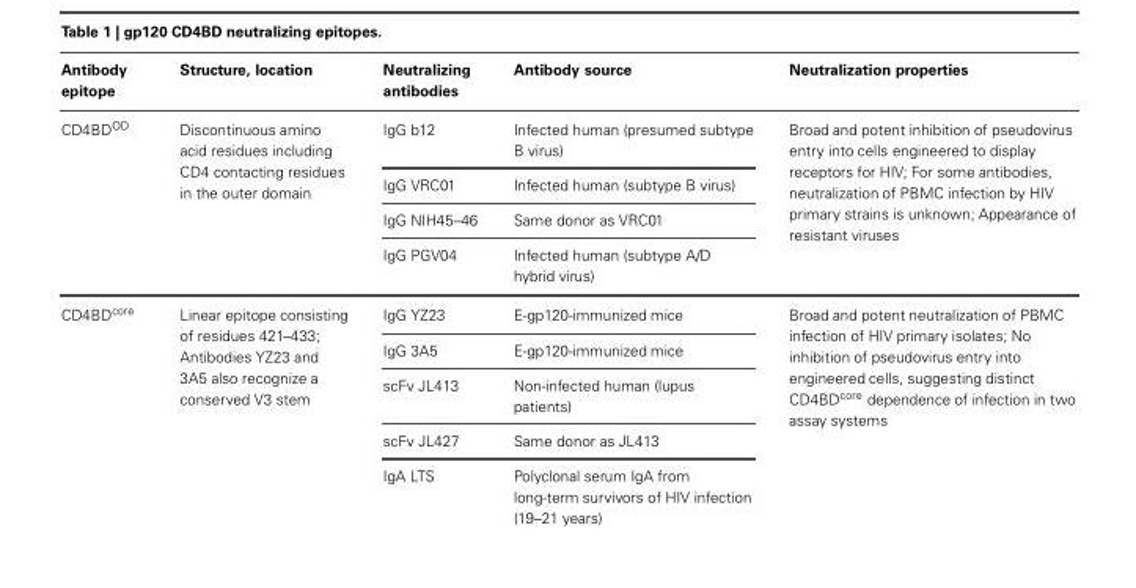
<table><thead><tr><td>Antibody epitope</td><td>Structure, location</td><td>Neutralizing antibodies</td><td>Antibody source</td><td>Neutralization properties</td></tr></thead><tbody><tr><td rowspan="4">CD4BD<sup>OD</sup></td><td rowspan="4">Discontinuous amino acid residues including CD4 contacting residues in the outer domain</td><td>IgG b12</td><td>Infected human (presumed subtype B virus)</td><td rowspan="4">Broad and potent inhibition of pseudovirus entry into cells engineered to display receptors for HIV; For some antibodies, neutralization of PBMC infection by HIV primary strains is unknown; Appearance of resistant viruses</td></tr><tr><td>IgG VRC01</td><td>Infected human (subtype B virus)</td></tr><tr><td>IgG NIH45–46</td><td>Same donor as VRC01</td></tr><tr><td>IgG PGV04</td><td>Infected human (subtype A/D hybrid virus)</td></tr><tr><td rowspan="5">CD4BD<sup>core</sup></td><td rowspan="5">Linear epitope consisting of residues 421–433; Antibodies YZ23 and 3A5 also recognize a conserved V3 stem</td><td>IgG YZ23</td><td>E-gp120-immunized mice</td><td rowspan="5">Broad and potent neutralization of PBMC infection of HIV primary isolates; No inhibition of pseudovirus entry into engineered cells, suggesting distinct CD4BD<sup>core</sup> dependence of infection in two assay systems</td></tr><tr><td>IgG 3A5</td><td>E-gp120-immunized mice</td></tr><tr><td>scFv JL413</td><td>Non-infected human (lupus patients)</td></tr><tr><td>scFv JL427</td><td>Same donor as JL413</td></tr><tr><td>IgA LTS</td><td>Polyclonal serum IgA from long-term survivors of HIV infection (19–21 years)</td></tr></tbody></table>